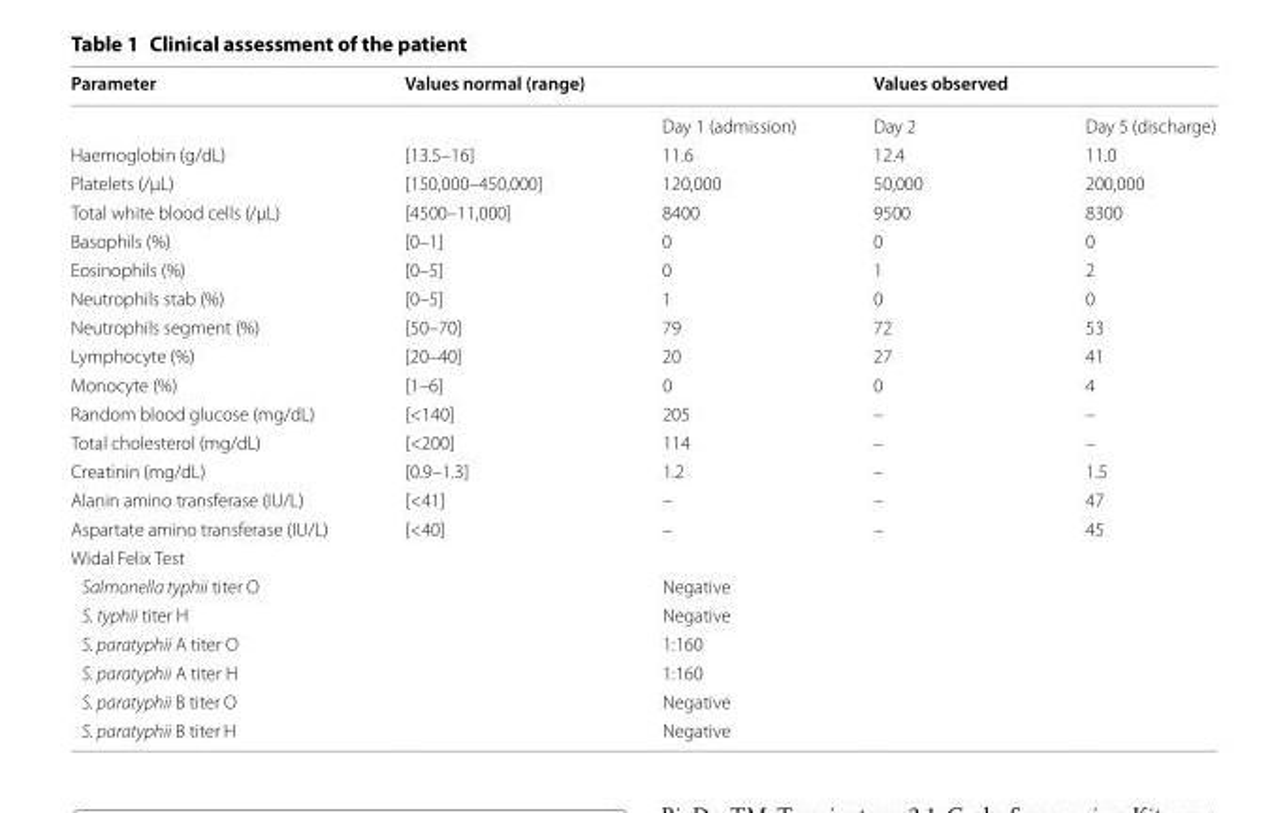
<table><thead><tr><td>Parameter</td><td>Values normal (range)</td><td></td><td>Values observed</td><td></td></tr></thead><tbody><tr><td></td><td></td><td>Day 1 (admission)</td><td>Day 2</td><td>Day 5 (discharge)</td></tr><tr><td>Haemoglobin (g/dL)</td><td>[13.5–16]</td><td>11.6</td><td>12.4</td><td>11.0</td></tr><tr><td>Platelets (/µL)</td><td>[150,000–450,000]</td><td>120,000</td><td>50,000</td><td>200,000</td></tr><tr><td>Total white blood cells (/µL)</td><td>[4500–11,000]</td><td>8400</td><td>9500</td><td>8300</td></tr><tr><td>Basophils (%)</td><td>[0–1]</td><td>0</td><td>0</td><td>0</td></tr><tr><td>Eosinophils (%)</td><td>[0–5]</td><td>0</td><td>1</td><td>2</td></tr><tr><td>Neutrophils stab (%)</td><td>[0–5]</td><td>1</td><td>0</td><td>0</td></tr><tr><td>Neutrophils segment (%)</td><td>[50–70]</td><td>79</td><td>72</td><td>53</td></tr><tr><td>Lymphocyte (%)</td><td>[20–40]</td><td>20</td><td>27</td><td>41</td></tr><tr><td>Monocyte (%)</td><td>[1–6]</td><td>0</td><td>0</td><td>4</td></tr><tr><td>Random blood glucose (mg/dL)</td><td>[&lt;140]</td><td>205</td><td>–</td><td>–</td></tr><tr><td>Total cholesterol (mg/dL)</td><td>[&lt;200]</td><td>114</td><td>–</td><td>–</td></tr><tr><td>Creatinin (mg/dL)</td><td>[0.9–1.3]</td><td>1.2</td><td>–</td><td>1.5</td></tr><tr><td>Alanin amino transferase (IU/L)</td><td>[&lt;41]</td><td>–</td><td>–</td><td>47</td></tr><tr><td>Aspartate amino transferase (IU/L)</td><td>[&lt;40]</td><td>–</td><td>–</td><td>45</td></tr><tr><td colspan="5">Widal Felix Test</td></tr><tr><td>Salmonella typhii titer O</td><td></td><td>Negative</td><td></td><td></td></tr><tr><td>S. typhii titer H</td><td></td><td>Negative</td><td></td><td></td></tr><tr><td>S. paratyphii A titer O</td><td></td><td>1:160</td><td></td><td></td></tr><tr><td>S. paratyphii A titer H</td><td></td><td>1:160</td><td></td><td></td></tr><tr><td>S. paratyphii B titer O</td><td></td><td>Negative</td><td></td><td></td></tr><tr><td>S. paratyphii B titer H</td><td></td><td>Negative</td><td></td><td></td></tr></tbody></table>